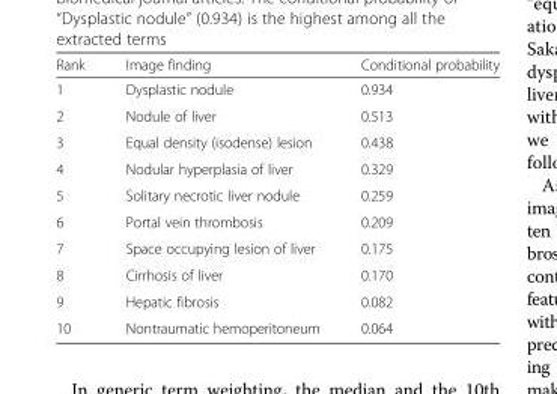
<table><thead><tr><td>Rank</td><td>Image finding</td><td>Conditional probability</td></tr></thead><tbody><tr><td>1</td><td>Dysplastic nodule</td><td>0.934</td></tr><tr><td>2</td><td>Nodule of liver</td><td>0.513</td></tr><tr><td>3</td><td>Equal density (isodense) lesion</td><td>0.438</td></tr><tr><td>4</td><td>Nodular hyperplasia of liver</td><td>0.329</td></tr><tr><td>5</td><td>Solitary necrotic liver nodule</td><td>0.259</td></tr><tr><td>6</td><td>Portal vein thrombosis</td><td>0.209</td></tr><tr><td>7</td><td>Space occupying lesion of liver</td><td>0.175</td></tr><tr><td>8</td><td>Cirrhosis of liver</td><td>0.170</td></tr><tr><td>9</td><td>Hepatic fibrosis</td><td>0.082</td></tr><tr><td>10</td><td>Nontraumatic hemoperitoneum</td><td>0.064</td></tr></tbody></table>